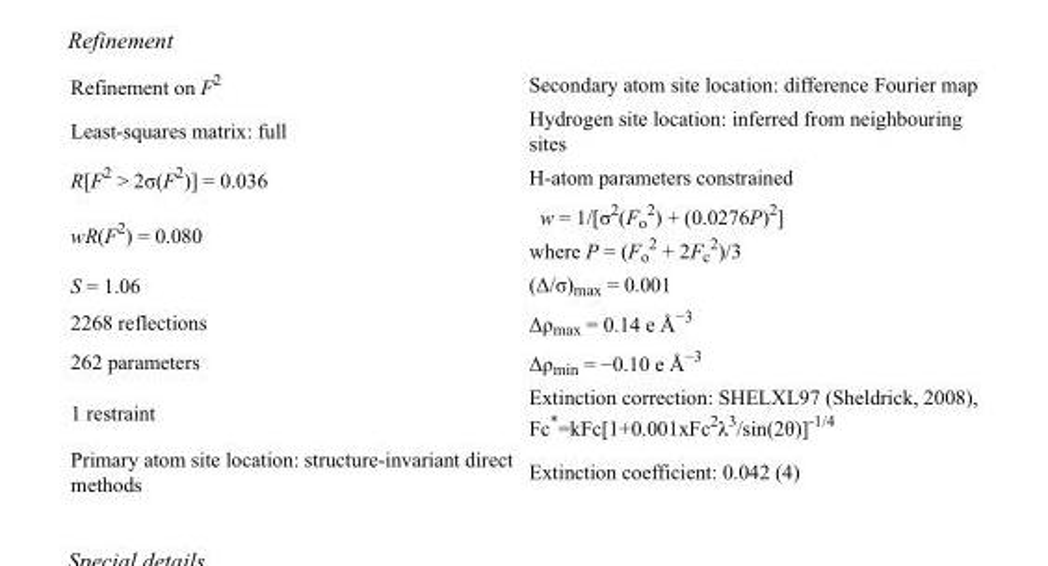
<table><tbody><tr><td>Refinement on F<sup>2</sup></td><td>Secondary atom site location: difference Fourier map</td></tr><tr><td>Least-squares matrix: full</td><td>Hydrogen site location: inferred from neighbouring sites</td></tr><tr><td>R[F<sup>2</sup> &gt; 2σ(F<sup>2</sup>)] = 0.036</td><td>H-atom parameters constrained</td></tr><tr><td>wR(F<sup>2</sup>) = 0.080</td><td>w = 1/[σ<sup>2</sup>(F<sub>o</sub> <sup>2</sup>) + (0.0276P)<sup>2</sup>] where P = (F<sub>o</sub> <sup>2</sup> + 2F<sub>c</sub> <sup>2</sup>)/3</td></tr><tr><td>S = 1.06</td><td>(Δ/σ)<sub>max</sub> = 0.001</td></tr><tr><td>2268 reflections</td><td>Δρ<sub>max</sub> = 0.14 e Å<sup>−3</sup></td></tr><tr><td>262 parameters</td><td>Δρ<sub>min</sub> = −0.10 e Å<sup>−3</sup></td></tr><tr><td>1 restraint</td><td>Extinction correction: SHELXL97 (Sheldrick, 2008), Fc*=kFc[1+0.001xFc<sup>2</sup>λ<sup>3</sup>/sin(2θ)]<sup>-1/4</sup></td></tr><tr><td>Primary atom site location: structure-invariant direct methods</td><td>Extinction coefficient: 0.042 (4)</td></tr></tbody></table>